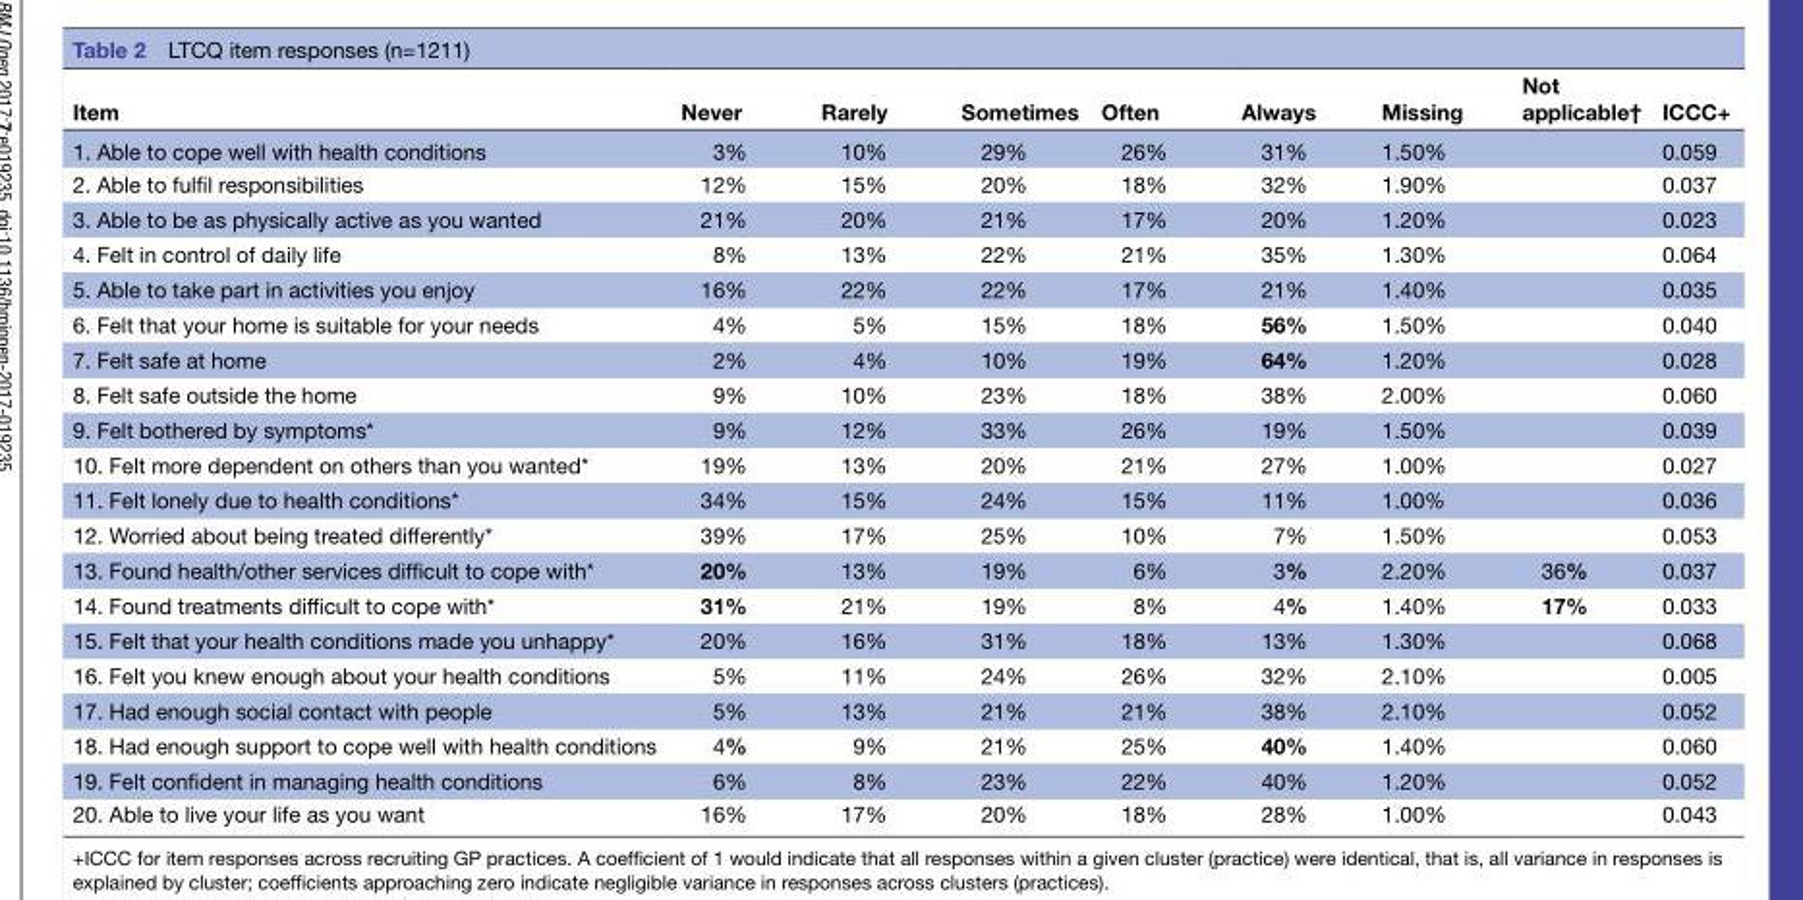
<table><thead><tr><td>Item</td><td>Never</td><td>Rarely</td><td>Sometimes</td><td>Often</td><td>Always</td><td>Missing</td><td>Not applicable†</td><td>ICCC+</td></tr></thead><tbody><tr><td>1. Able to cope well with health conditions</td><td>3%</td><td>10%</td><td>29%</td><td>26%</td><td>31%</td><td>1.50%</td><td></td><td>0.059</td></tr><tr><td>2. Able to fulfil responsibilities</td><td>12%</td><td>15%</td><td>20%</td><td>18%</td><td>32%</td><td>1.90%</td><td></td><td>0.037</td></tr><tr><td>3. Able to be as physically active as you wanted</td><td>21%</td><td>20%</td><td>21%</td><td>17%</td><td>20%</td><td>1.20%</td><td></td><td>0.023</td></tr><tr><td>4. Felt in control of daily life</td><td>8%</td><td>13%</td><td>22%</td><td>21%</td><td>35%</td><td>1.30%</td><td></td><td>0.064</td></tr><tr><td>5. Able to take part in activities you enjoy</td><td>16%</td><td>22%</td><td>22%</td><td>17%</td><td>21%</td><td>1.40%</td><td></td><td>0.035</td></tr><tr><td>6. Felt that your home is suitable for your needs</td><td>4%</td><td>5%</td><td>15%</td><td>18%</td><td>56%</td><td>1.50%</td><td></td><td>0.040</td></tr><tr><td>7. Felt safe at home</td><td>2%</td><td>4%</td><td>10%</td><td>19%</td><td>64%</td><td>1.20%</td><td></td><td>0.028</td></tr><tr><td>8. Felt safe outside the home</td><td>9%</td><td>10%</td><td>23%</td><td>18%</td><td>38%</td><td>2.00%</td><td></td><td>0.060</td></tr><tr><td>9. Felt bothered by symptoms*</td><td>9%</td><td>12%</td><td>33%</td><td>26%</td><td>19%</td><td>1.50%</td><td></td><td>0.039</td></tr><tr><td>10. Felt more dependent on others than you wanted*</td><td>19%</td><td>13%</td><td>20%</td><td>21%</td><td>27%</td><td>1.00%</td><td></td><td>0.027</td></tr><tr><td>11. Felt lonely due to health conditions*</td><td>34%</td><td>15%</td><td>24%</td><td>15%</td><td>11%</td><td>1.00%</td><td></td><td>0.036</td></tr><tr><td>12. Worried about being treated differently*</td><td>39%</td><td>17%</td><td>25%</td><td>10%</td><td>7%</td><td>1.50%</td><td></td><td>0.053</td></tr><tr><td>13. Found health/other services difficult to cope with*</td><td>20%</td><td>13%</td><td>19%</td><td>6%</td><td>3%</td><td>2.20%</td><td>36%</td><td>0.037</td></tr><tr><td>14. Found treatments difficult to cope with*</td><td>31%</td><td>21%</td><td>19%</td><td>8%</td><td>4%</td><td>1.40%</td><td>17%</td><td>0.033</td></tr><tr><td>15. Felt that your health conditions made you unhappy*</td><td>20%</td><td>16%</td><td>31%</td><td>18%</td><td>13%</td><td>1.30%</td><td></td><td>0.068</td></tr><tr><td>16. Felt you knew enough about your health conditions</td><td>5%</td><td>11%</td><td>24%</td><td>26%</td><td>32%</td><td>2.10%</td><td></td><td>0.005</td></tr><tr><td>17. Had enough social contact with people</td><td>5%</td><td>13%</td><td>21%</td><td>21%</td><td>38%</td><td>2.10%</td><td></td><td>0.052</td></tr><tr><td>18. Had enough support to cope well with health conditions</td><td>4%</td><td>9%</td><td>21%</td><td>25%</td><td>40%</td><td>1.40%</td><td></td><td>0.060</td></tr><tr><td>19. Felt confident in managing health conditions</td><td>6%</td><td>8%</td><td>23%</td><td>22%</td><td>40%</td><td>1.20%</td><td></td><td>0.052</td></tr><tr><td>20. Able to live your life as you want</td><td>16%</td><td>17%</td><td>20%</td><td>18%</td><td>28%</td><td>1.00%</td><td></td><td>0.043</td></tr></tbody></table>